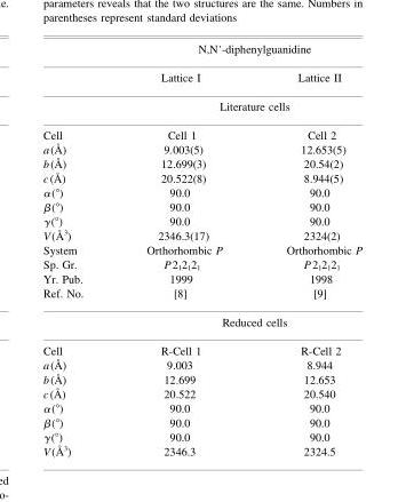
<table><thead><tr><td rowspan="3"></td><td colspan="2">N,N&#x27;-diphenylguanidine</td></tr><tr><td>Lattice I</td><td>Lattice II</td></tr><tr><td colspan="2">Literature cells</td></tr></thead><tbody><tr><td>Cell</td><td>Cell 1</td><td>Cell 2</td></tr><tr><td>a(Å)</td><td>9.003(5)</td><td>12.653(5)</td></tr><tr><td>b(Å)</td><td>12.699(3)</td><td>20.54(2)</td></tr><tr><td>c(Å)</td><td>20.522(8)</td><td>8.944(5)</td></tr><tr><td>α(°)</td><td>90.0</td><td>90.0</td></tr><tr><td>β(°)</td><td>90.0</td><td>90.0</td></tr><tr><td>γ(°)</td><td>90.0</td><td>90.0</td></tr><tr><td>V(Å<sup>3</sup>)</td><td>2346.3(17)</td><td>2324(2)</td></tr><tr><td>System</td><td>Orthorhombic P</td><td>Orthorhombic P</td></tr><tr><td>Sp. Gr.</td><td>P2<sub>1</sub>2<sub>1</sub>2<sub>1</sub></td><td>P2<sub>1</sub>2<sub>1</sub>2<sub>1</sub></td></tr><tr><td>Yr. Pub.</td><td>1999</td><td>1998</td></tr><tr><td rowspan="2">Ref. No.</td><td>[8]</td><td>[9]</td></tr><tr><td colspan="2">Reduced cells</td></tr><tr><td>Cell</td><td>R-Cell 1</td><td>R-Cell 2</td></tr><tr><td>a(Å)</td><td>9.003</td><td>8.944</td></tr><tr><td>b(Å)</td><td>12.699</td><td>12.653</td></tr><tr><td>c(Å)</td><td>20.522</td><td>20.540</td></tr><tr><td>α(°)</td><td>90.0</td><td>90.0</td></tr><tr><td>β(°)</td><td>90.0</td><td>90.0</td></tr><tr><td>γ(°)</td><td>90.0</td><td>90.0</td></tr><tr><td>V(Å<sup>3</sup>)</td><td>2346.3</td><td>2324.5</td></tr></tbody></table>